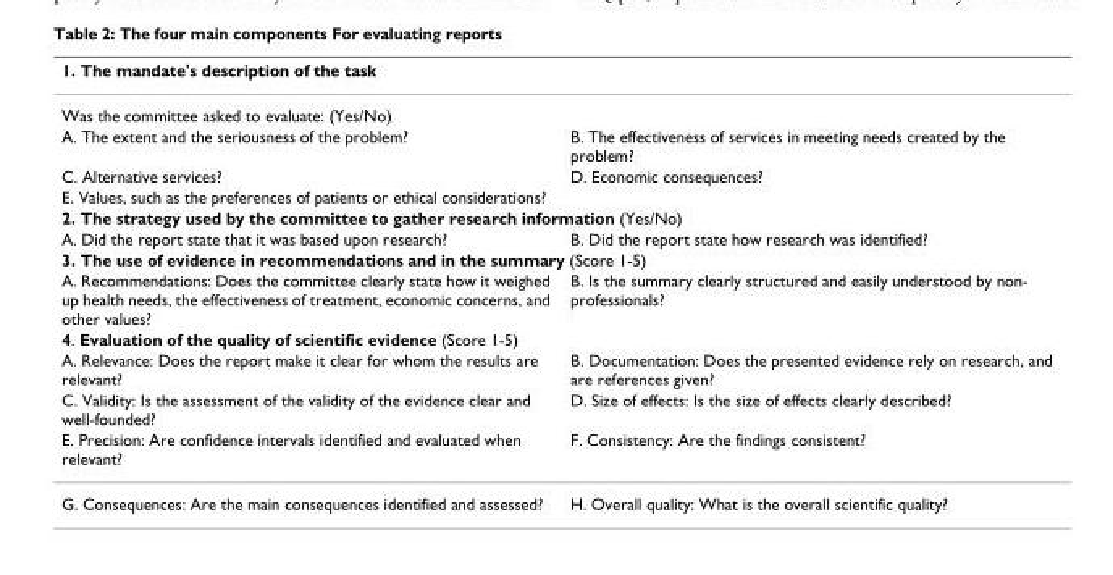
<table><thead><tr><td rowspan="2" colspan="2">1. The mandate&#x27;s description of the task Was the committee asked to evaluate: (Yes/No)</td></tr><tr></tr><tr><td>A. The extent and the seriousness of the problem?</td><td>B. The effectiveness of services in meeting needs created by the problem?</td></tr></thead><tbody><tr><td>C. Alternative services?</td><td>D. Economic consequences?</td></tr><tr><td colspan="2">E. Values, such as the preferences of patients or ethical considerations?</td></tr><tr><td colspan="2">2. The strategy used by the committee to gather research information (Yes/No)</td></tr><tr><td>A. Did the report state that it was based upon research?</td><td>B. Did the report state how research was identified?</td></tr><tr><td colspan="2">3. The use of evidence in recommendations and in the summary (Score 1-5)</td></tr><tr><td>A. Recommendations: Does the committee clearly state how it weighed up health needs, the effectiveness of treatment, economic concerns, and other values?</td><td>B. Is the summary clearly structured and easily understood by non- professionals?</td></tr><tr><td colspan="2">4. Evaluation of the quality of scientific evidence (Score 1-5)</td></tr><tr><td>A. Relevance: Does the report make it clear for whom the results are relevant?</td><td>B. Documentation: Does the presented evidence rely on research, and are references given?</td></tr><tr><td>C. Validity: Is the assessment of the validity of the evidence clear and well-founded?</td><td>D. Size of effects: Is the size of effects clearly described?</td></tr><tr><td>E. Precision: Are confidence intervals identified and evaluated when relevant?</td><td>F. Consistency: Are the findings consistent?</td></tr><tr><td>G. Consequences: Are the main consequences identified and assessed?</td><td>H. Overall quality: What is the overall scientific quality?</td></tr></tbody></table>